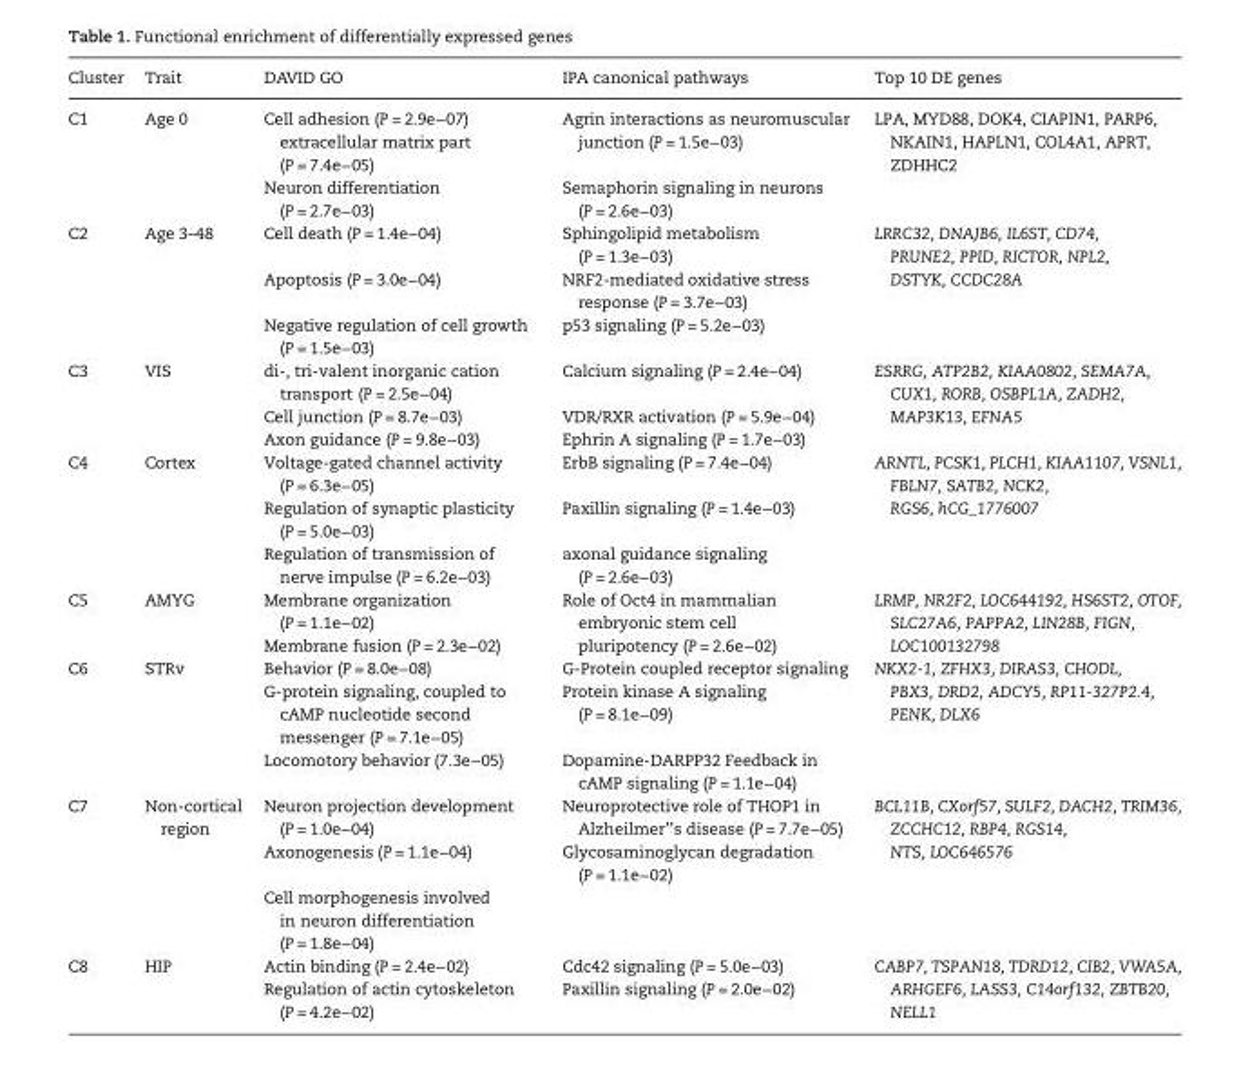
<table><thead><tr><td>Cluster</td><td>Trait</td><td>DAVID GO</td><td>IPA canonical pathways</td><td>Top 10 DE genes</td></tr></thead><tbody><tr><td rowspan="2">C1</td><td rowspan="2">Age 0</td><td>Cell adhesion (P = 2.9e−07) extracellular matrix part (P = 7.4e−05)</td><td>Agrin interactions as neuromuscular junction (P = 1.5e−03)</td><td rowspan="2">LPA, MYD88, DOK4, CIAPIN1, PARP6, NKAIN1, HAPLN1, COL4A1, APRT, ZDHHC2</td></tr><tr><td>Neuron differentiation (P = 2.7e−03)</td><td>Semaphorin signaling in neurons (P = 2.6e−03)</td></tr><tr><td rowspan="3">C2</td><td rowspan="3">Age 3–48</td><td>Cell death (P = 1.4e−04)</td><td>Sphingolipid metabolism (P = 1.3e−03)</td><td rowspan="3">LRRC32, DNAJB6, IL6ST, CD74, PRUNE2, PPID, RICTOR, NPL2, DSTYK, CCDC28A</td></tr><tr><td>Apoptosis (P = 3.0e−04)</td><td>NRF2-mediated oxidative stress response (P = 3.7e−03)</td></tr><tr><td>Negative regulation of cell growth (P = 1.5e−03)</td><td>p53 signaling (P = 5.2e−03)</td></tr><tr><td rowspan="3">C3</td><td rowspan="3">VIS</td><td>di-, tri-valent inorganic cation transport (P = 2.5e−04)</td><td>Calcium signaling (P = 2.4e−04)</td><td rowspan="3">ESRRG, ATP2B2, KIAA0802, SEMA7A, CUX1, RORB, OSBPL1A, ZADH2, MAP3K13, EFNA5</td></tr><tr><td>Cell junction (P = 8.7e−03)</td><td>VDR/RXR activation (P = 5.9e−04)</td></tr><tr><td>Axon guidance (P = 9.8e−03)</td><td>Ephrin A signaling (P = 1.7e−03)</td></tr><tr><td rowspan="3">C4</td><td rowspan="3">Cortex</td><td>Voltage-gated channel activity (P = 6.3e−05)</td><td>ErbB signaling (P = 7.4e−04)</td><td rowspan="3">ARNTL, PCSK1, PLCH1, KIAA1107, VSNL1, FBLN7, SATB2, NCK2, RGS6, hCG_1776007</td></tr><tr><td>Regulation of synaptic plasticity (P = 5.0e−03)</td><td>Paxillin signaling (P = 1.4e−03)</td></tr><tr><td>Regulation of transmission of nerve impulse (P = 6.2e−03)</td><td>axonal guidance signaling (P = 2.6e−03)</td></tr><tr><td rowspan="2">C5</td><td rowspan="2">AMYG</td><td>Membrane organization (P = 1.1e−02)</td><td rowspan="2">Role of Oct4 in mammalian embryonic stem cell pluripotency (P = 2.6e−02)</td><td rowspan="2">LRMP, NR2F2, LOC644192, HS6ST2, OTOF, SLC27A6, PAPPA2, LIN28B, FIGN, LOC100132798</td></tr><tr><td>Membrane fusion (P = 2.3e−02)</td></tr><tr><td rowspan="3">C6</td><td rowspan="3">STRv</td><td>Behavior (P = 8.0e−08)</td><td>G-Protein coupled receptor signaling</td><td rowspan="3">NKX2-1, ZFHX3, DIRAS3, CHODL, PBX3, DRD2, ADCY5, RP11-327P2.4, PENK, DLX6</td></tr><tr><td>G-protein signaling, coupled to cAMP nucleotide second messenger (P = 7.1e−05)</td><td>Protein kinase A signaling (P = 8.1e−09)</td></tr><tr><td>Locomotory behavior (7.3e−05)</td><td>Dopamine-DARPP32 Feedback in cAMP signaling (P = 1.1e−04)</td></tr><tr><td rowspan="3">C7</td><td rowspan="3">Non-cortical region</td><td>Neuron projection development (P = 1.0e−04)</td><td>Neuroprotective role of THOP1 in Alzheilmer’’s disease (P = 7.7e−05)</td><td rowspan="3">BCL11B, CXorf57, SULF2, DACH2, TRIM36, ZCCHC12, RBP4, RGS14, NTS, LOC646576</td></tr><tr><td>Axonogenesis (P = 1.1e−04)</td><td>Glycosaminoglycan degradation (P = 1.1e−02)</td></tr><tr><td>Cell morphogenesis involved in neuron differentiation (P = 1.8e−04)</td><td></td></tr><tr><td rowspan="2">C8</td><td rowspan="2">HIP</td><td>Actin binding (P = 2.4e−02)</td><td>Cdc42 signaling (P = 5.0e−03)</td><td rowspan="2">CABP7, TSPAN18, TDRD12, CIB2, VWA5A, ARHGEF6, LASS3, C14orf132, ZBTB20, NELL1</td></tr><tr><td>Regulation of actin cytoskeleton (P = 4.2e−02)</td><td>Paxillin signaling (P = 2.0e−02)</td></tr></tbody></table>